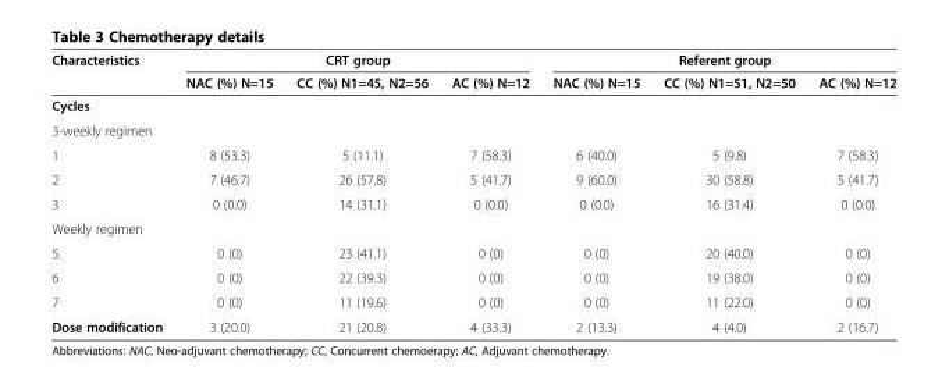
<table><thead><tr><td rowspan="2">Characteristics</td><td colspan="3">CRT group</td><td colspan="3">Referent group</td></tr><tr><td>NAC (%) N=15</td><td>CC (%) N1=45, N2=56</td><td>AC (%) N=12</td><td>NAC (%) N=15</td><td>CC (%) N1=51, N2=50</td><td>AC (%) N=12</td></tr></thead><tbody><tr><td colspan="7">Cycles</td></tr><tr><td colspan="7">3-weekly regimen</td></tr><tr><td>1</td><td>8 (53.3)</td><td>5 (11.1)</td><td>7 (58.3)</td><td>6 (40.0)</td><td>5 (9.8)</td><td>7 (58.3)</td></tr><tr><td>2</td><td>7 (46.7)</td><td>26 (57.8)</td><td>5 (41.7)</td><td>9 (60.0)</td><td>30 (58.8)</td><td>5 (41.7)</td></tr><tr><td>3</td><td>0 (0.0)</td><td>14 (31.1)</td><td>0 (0.0)</td><td>0 (0.0)</td><td>16 (31.4)</td><td>0 (0.0)</td></tr><tr><td colspan="7">Weekly regimen</td></tr><tr><td>5</td><td>0 (0)</td><td>23 (41.1)</td><td>0 (0)</td><td>0 (0)</td><td>20 (40.0)</td><td>0 (0)</td></tr><tr><td>6</td><td>0 (0)</td><td>22 (39.3)</td><td>0 (0)</td><td>0 (0)</td><td>19 (38.0)</td><td>0 (0)</td></tr><tr><td>7</td><td>0 (0)</td><td>11 (19.6)</td><td>0 (0)</td><td>0 (0)</td><td>11 (22.0)</td><td>0 (0)</td></tr><tr><td>Dose modification</td><td>3 (20.0)</td><td>21 (20.8)</td><td>4 (33.3)</td><td>2 (13.3)</td><td>4 (4.0)</td><td>2 (16.7)</td></tr></tbody></table>